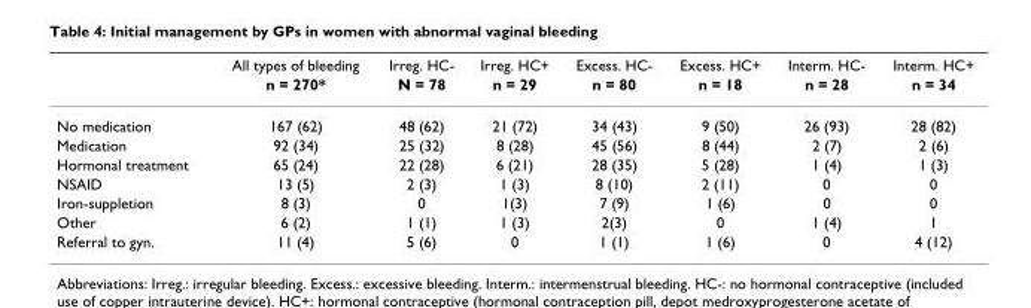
<table><thead><tr><td rowspan="2"></td><td rowspan="2">All types of bleeding n = 270*</td><td rowspan="2">Irreg. HC- N = 78</td><td rowspan="2">Irreg. HC+ n = 29</td><td rowspan="2">Excess. HC- n = 80</td><td rowspan="2">Excess. HC+ n = 18</td><td rowspan="2">Interm. HC- n = 28</td><td rowspan="2">Interm. HC+ n = 34</td></tr><tr></tr></thead><tbody><tr><td>No medication</td><td>167 (62)</td><td>48 (62)</td><td>21 (72)</td><td>34 (43)</td><td>9 (50)</td><td>26 (93)</td><td>28 (82)</td></tr><tr><td>Medication</td><td>92 (34)</td><td>25 (32)</td><td>8 (28)</td><td>45 (56)</td><td>8 (44)</td><td>2 (7)</td><td>2 (6)</td></tr><tr><td>Hormonal treatment</td><td>65 (24)</td><td>22 (28)</td><td>6 (21)</td><td>28 (35)</td><td>5 (28)</td><td>1 (4)</td><td>1 (3)</td></tr><tr><td>NSAID</td><td>13 (5)</td><td>2 (3)</td><td>1 (3)</td><td>8 (10)</td><td>2 (11)</td><td>0</td><td>0</td></tr><tr><td>Iron-suppletion</td><td>8 (3)</td><td>0</td><td>1(3)</td><td>7 (9)</td><td>1 (6)</td><td>0</td><td>0</td></tr><tr><td>Other</td><td>6 (2)</td><td>1 (1)</td><td>1 (3)</td><td>2(3)</td><td>0</td><td>1 (4)</td><td>1</td></tr><tr><td>Referral to gyn.</td><td>11 (4)</td><td>5 (6)</td><td>0</td><td>1 (1)</td><td>1 (6)</td><td>0</td><td>4 (12)</td></tr></tbody></table>